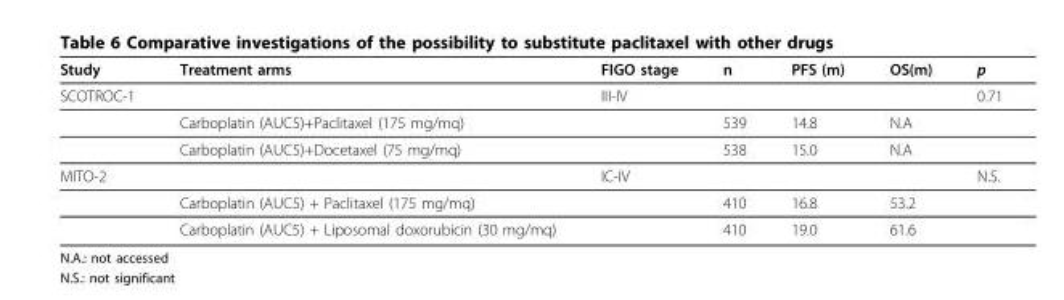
<table><thead><tr><td>Study</td><td>Treatment arms</td><td>FIGO stage</td><td>n</td><td>PFS (m)</td><td>OS(m)</td><td>p</td></tr></thead><tbody><tr><td rowspan="3">SCOTROC-1</td><td></td><td>III-IV</td><td></td><td></td><td></td><td>0.71</td></tr><tr><td>Carboplatin (AUC5)+Paclitaxel (175 mg/mq)</td><td></td><td>539</td><td>14.8</td><td>N.A</td><td></td></tr><tr><td>Carboplatin (AUC5)+Docetaxel (75 mg/mq)</td><td></td><td>538</td><td>15.0</td><td>N.A</td><td></td></tr><tr><td rowspan="3">MITO-2</td><td></td><td>IC-IV</td><td></td><td></td><td></td><td>N.S.</td></tr><tr><td>Carboplatin (AUC5) + Paclitaxel (175 mg/mq)</td><td></td><td>410</td><td>16.8</td><td>53.2</td><td></td></tr><tr><td>Carboplatin (AUC5) + Liposomal doxorubicin (30 mg/mq)</td><td></td><td>410</td><td>19.0</td><td>61.6</td><td></td></tr></tbody></table>